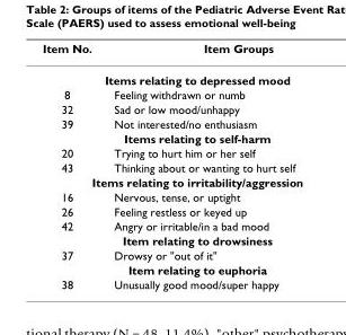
<table><thead><tr><td>Item No.</td><td>Item Groups</td></tr></thead><tbody><tr><td colspan="2">Items relating to depressed mood</td></tr><tr><td>8</td><td>Feeling withdrawn or numb</td></tr><tr><td>32</td><td>Sad or low mood/unhappy</td></tr><tr><td>39</td><td>Not interested/no enthusiasm</td></tr><tr><td colspan="2">Items relating to self-harm</td></tr><tr><td>20</td><td>Trying to hurt him or her self</td></tr><tr><td>43</td><td>Thinking about or wanting to hurt self</td></tr><tr><td colspan="2">Items relating to irritability/aggression</td></tr><tr><td>16</td><td>Nervous, tense, or uptight</td></tr><tr><td>26</td><td>Feeling restless or keyed up</td></tr><tr><td>42</td><td>Angry or irritable/in a bad mood</td></tr><tr><td colspan="2">Item relating to drowsiness</td></tr><tr><td>37</td><td>Drowsy or &quot;out of it&quot;</td></tr><tr><td colspan="2">Item relating to euphoria</td></tr><tr><td>38</td><td>Unusually good mood/super happy</td></tr></tbody></table>